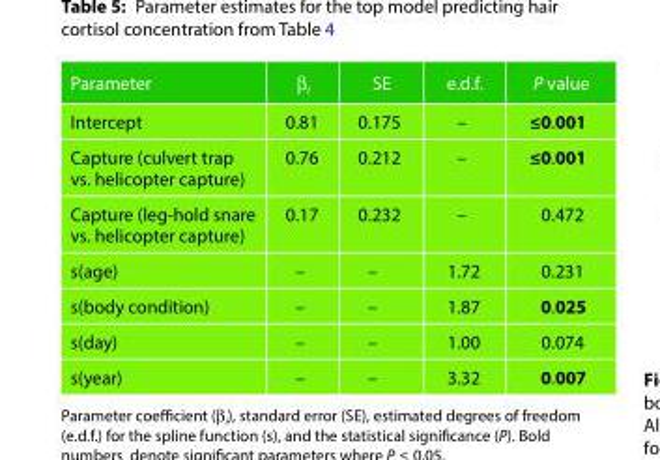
<table><thead><tr><td>Parameter</td><td>β<sub>i</sub></td><td>SE</td><td>e.d.f.</td><td>P value</td></tr></thead><tbody><tr><td>Intercept</td><td>0.81</td><td>0.175</td><td>–</td><td>≤0.001</td></tr><tr><td>Capture (culvert trap vs. helicopter capture)</td><td>0.76</td><td>0.212</td><td>–</td><td>≤0.001</td></tr><tr><td>Capture (leg-hold snare vs. helicopter capture)</td><td>0.17</td><td>0.232</td><td>–</td><td>0.472</td></tr><tr><td>s(age)</td><td>–</td><td>–</td><td>1.72</td><td>0.231</td></tr><tr><td>s(body condition)</td><td>–</td><td>–</td><td>1.87</td><td>0.025</td></tr><tr><td>s(day)</td><td>–</td><td>–</td><td>1.00</td><td>0.074</td></tr><tr><td>s(year)</td><td>–</td><td>–</td><td>3.32</td><td>0.007</td></tr></tbody></table>